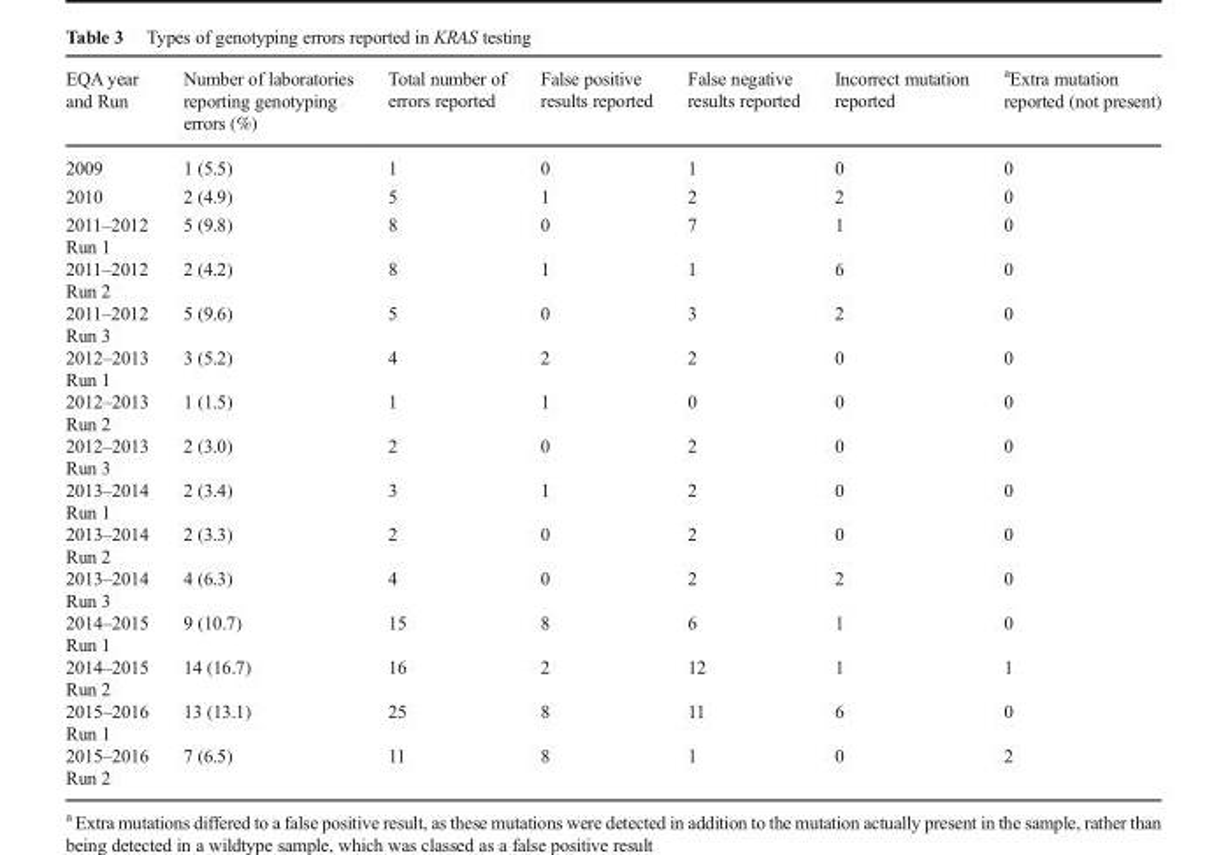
<table><thead><tr><td>EQA year and Run</td><td>Number of laboratories reporting genotyping errors (%)</td><td>Total number of errors reported</td><td>False positive results reported</td><td>False negative results reported</td><td>Incorrect mutation reported</td><td><sup>a</sup>Extra mutation reported (not present)</td></tr></thead><tbody><tr><td>2009</td><td>1 (5.5)</td><td>1</td><td>0</td><td>1</td><td>0</td><td>0</td></tr><tr><td>2010</td><td>2 (4.9)</td><td>5</td><td>1</td><td>2</td><td>2</td><td>0</td></tr><tr><td>2011–2012 Run 1</td><td>5 (9.8)</td><td>8</td><td>0</td><td>7</td><td>1</td><td>0</td></tr><tr><td>2011–2012 Run 2</td><td>2 (4.2)</td><td>8</td><td>1</td><td>1</td><td>6</td><td>0</td></tr><tr><td>2011–2012 Run 3</td><td>5 (9.6)</td><td>5</td><td>0</td><td>3</td><td>2</td><td>0</td></tr><tr><td>2012–2013 Run 1</td><td>3 (5.2)</td><td>4</td><td>2</td><td>2</td><td>0</td><td>0</td></tr><tr><td>2012–2013 Run 2</td><td>1 (1.5)</td><td>1</td><td>1</td><td>0</td><td>0</td><td>0</td></tr><tr><td>2012–2013 Run 3</td><td>2 (3.0)</td><td>2</td><td>0</td><td>2</td><td>0</td><td>0</td></tr><tr><td>2013–2014 Run 1</td><td>2 (3.4)</td><td>3</td><td>1</td><td>2</td><td>0</td><td>0</td></tr><tr><td>2013–2014 Run 2</td><td>2 (3.3)</td><td>2</td><td>0</td><td>2</td><td>0</td><td>0</td></tr><tr><td>2013–2014 Run 3</td><td>4 (6.3)</td><td>4</td><td>0</td><td>2</td><td>2</td><td>0</td></tr><tr><td>2014–2015 Run 1</td><td>9 (10.7)</td><td>15</td><td>8</td><td>6</td><td>1</td><td>0</td></tr><tr><td>2014–2015 Run 2</td><td>14 (16.7)</td><td>16</td><td>2</td><td>12</td><td>1</td><td>1</td></tr><tr><td>2015–2016 Run 1</td><td>13 (13.1)</td><td>25</td><td>8</td><td>11</td><td>6</td><td>0</td></tr><tr><td>2015–2016 Run 2</td><td>7 (6.5)</td><td>11</td><td>8</td><td>1</td><td>0</td><td>2</td></tr></tbody></table>